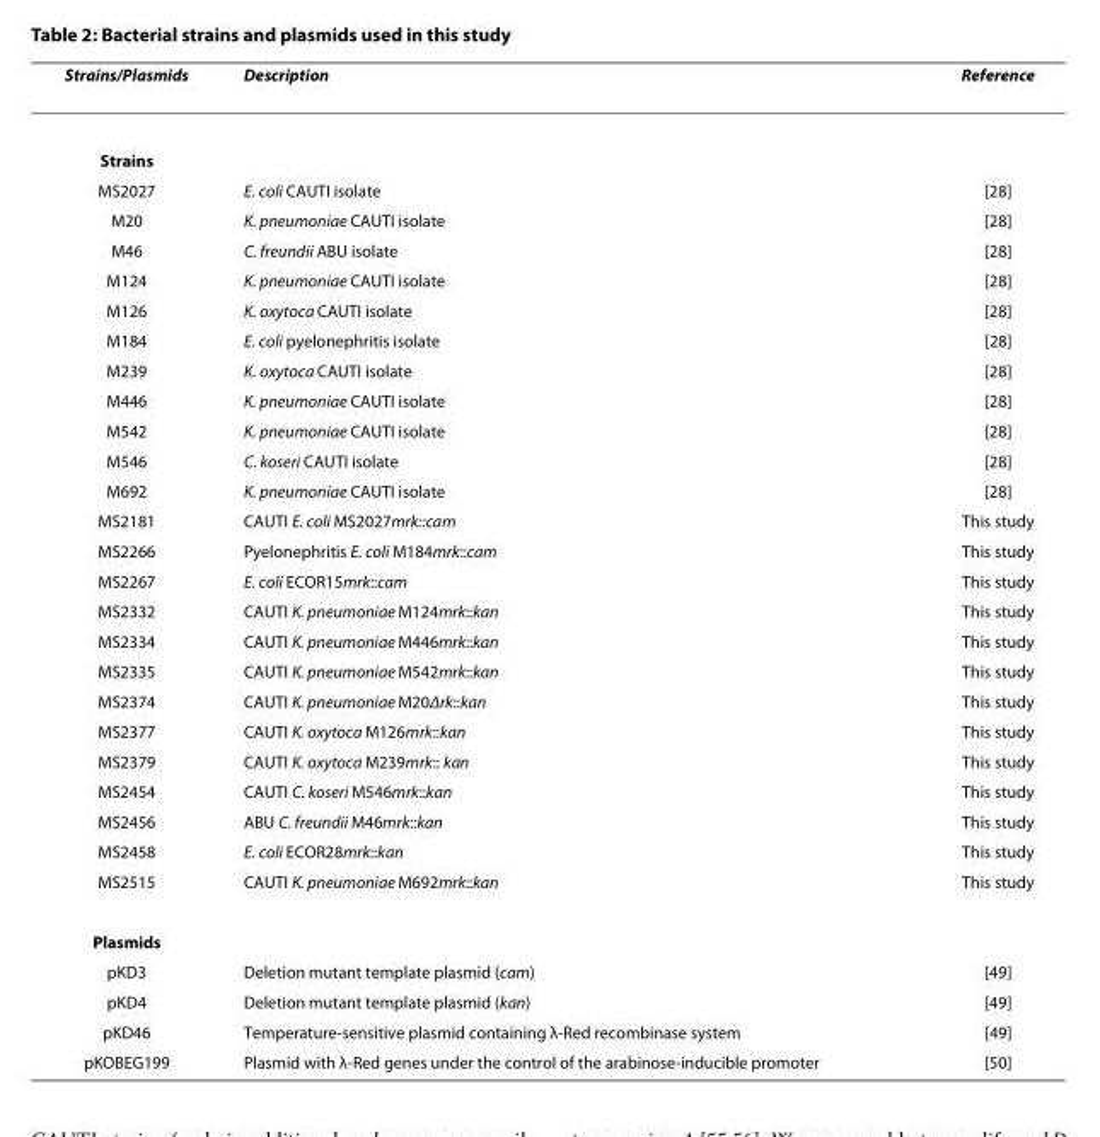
<table><thead><tr><td>Strains/Plasmids</td><td>Description</td><td>Reference</td></tr></thead><tbody><tr><td colspan="3">Strains</td></tr><tr><td>MS2027</td><td>E. coli CAUTI isolate</td><td>[28]</td></tr><tr><td>M20</td><td>K. pneumoniae CAUTI isolate</td><td>[28]</td></tr><tr><td>M46</td><td>C. freundii ABU isolate</td><td>[28]</td></tr><tr><td>M124</td><td>K. pneumoniae CAUTI isolate</td><td>[28]</td></tr><tr><td>M126</td><td>K. oxytoca CAUTI isolate</td><td>[28]</td></tr><tr><td>M184</td><td>E. coli pyelonephritis isolate</td><td>[28]</td></tr><tr><td>M239</td><td>K. oxytoca CAUTI isolate</td><td>[28]</td></tr><tr><td>M446</td><td>K. pneumoniae CAUTI isolate</td><td>[28]</td></tr><tr><td>M542</td><td>K. pneumoniae CAUTI isolate</td><td>[28]</td></tr><tr><td>M546</td><td>C. koseri CAUTI isolate</td><td>[28]</td></tr><tr><td>M692</td><td>K. pneumoniae CAUTI isolate</td><td>[28]</td></tr><tr><td>MS2181</td><td>CAUTI E. coli MS2027mrk::cam</td><td>This study</td></tr><tr><td>MS2266</td><td>Pyelonephritis E. coli M184mrk::cam</td><td>This study</td></tr><tr><td>MS2267</td><td>E. coli ECOR15mrk::cam</td><td>This study</td></tr><tr><td>MS2332</td><td>CAUTI K. pneumoniae M124mrk::kan</td><td>This study</td></tr><tr><td>MS2334</td><td>CAUTI K. pneumoniae M446mrk::kan</td><td>This study</td></tr><tr><td>MS2335</td><td>CAUTI K. pneumoniae M542mrk::kan</td><td>This study</td></tr><tr><td>MS2374</td><td>CAUTI K. pneumoniae M20Δrk::kan</td><td>This study</td></tr><tr><td>MS2377</td><td>CAUTI K. oxytoca M126mrk::kan</td><td>This study</td></tr><tr><td>MS2379</td><td>CAUTI K. oxytoca M239mrk:: kan</td><td>This study</td></tr><tr><td>MS2454</td><td>CAUTI C. koseri M546mrk::kan</td><td>This study</td></tr><tr><td>MS2456</td><td>ABU C. freundii M46mrk::kan</td><td>This study</td></tr><tr><td>MS2458</td><td>E. coli ECOR28mrk::kan</td><td>This study</td></tr><tr><td>MS2515</td><td>CAUTI K. pneumoniae M692mrk::kan</td><td>This study</td></tr><tr><td colspan="3">Plasmids</td></tr><tr><td>pKD3</td><td>Deletion mutant template plasmid (cam)</td><td>[49]</td></tr><tr><td>pKD4</td><td>Deletion mutant template plasmid (kan)</td><td>[49]</td></tr><tr><td>pKD46</td><td>Temperature-sensitive plasmid containing λ-Red recombinase system</td><td>[49]</td></tr><tr><td>pKOBEG199</td><td>Plasmid with λ-Red genes under the control of the arabinose-inducible promoter</td><td>[50]</td></tr></tbody></table>